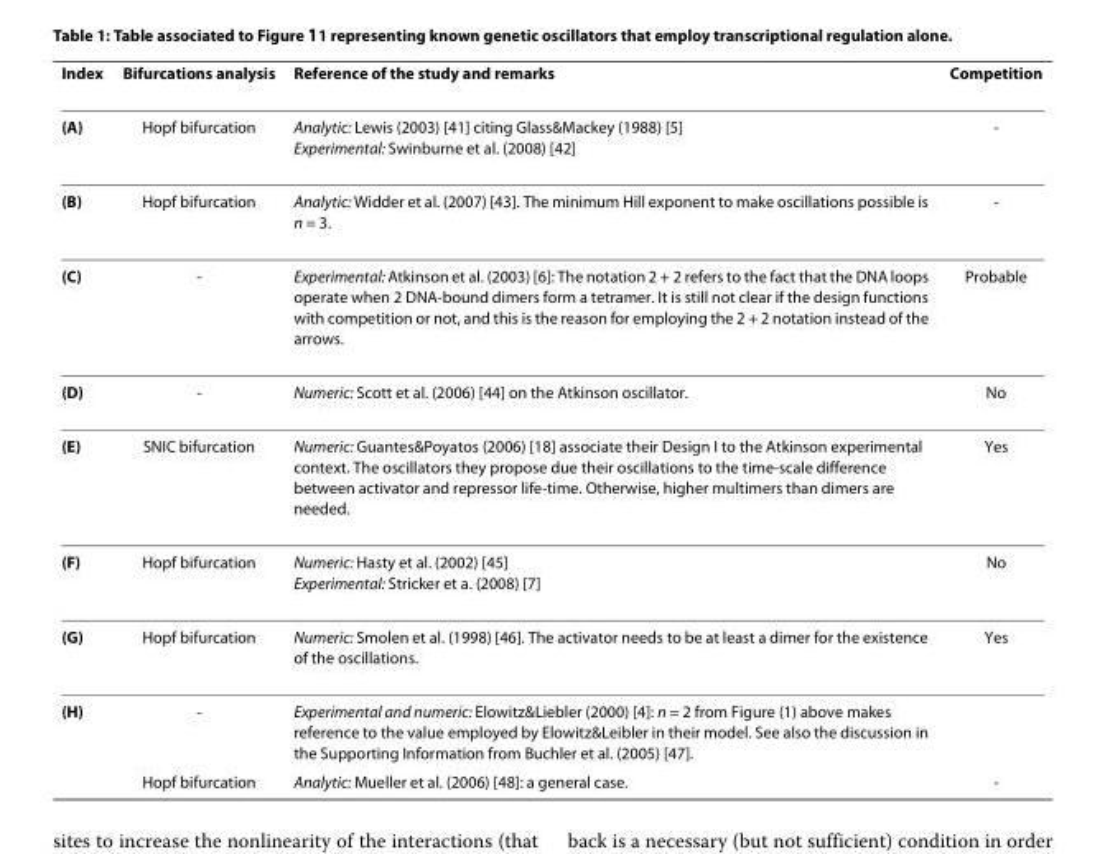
<table><thead><tr><td>Index</td><td>Bifurcations analysis</td><td>Reference of the study and remarks</td><td>Competition</td></tr></thead><tbody><tr><td>(A)</td><td>Hopf bifurcation</td><td>Analytic: Lewis (2003) [41] citing Glass&amp;Mackey (1988) [5] Experimental: Swinburne et al. (2008) [42]</td><td>-</td></tr><tr><td>(B)</td><td>Hopf bifurcation</td><td>Analytic: Widder et al. (2007) [43]. The minimum Hill exponent to make oscillations possible is n = 3.</td><td>-</td></tr><tr><td>(C)</td><td>-</td><td>Experimental: Atkinson et al. (2003) [6]: The notation 2 + 2 refers to the fact that the DNA loops operate when 2 DNA-bound dimers form a tetramer. It is still not clear if the design functions with competition or not, and this is the reason for employing the 2 + 2 notation instead of the arrows.</td><td>Probable</td></tr><tr><td>(D)</td><td>-</td><td>Numeric: Scott et al. (2006) [44] on the Atkinson oscillator.</td><td>No</td></tr><tr><td>(E)</td><td>SNIC bifurcation</td><td>Numeric: Guantes&amp;Poyatos (2006) [18] associate their Design I to the Atkinson experimental context. The oscillators they propose due their oscillations to the time-scale difference between activator and repressor life-time. Otherwise, higher multimers than dimers are needed.</td><td>Yes</td></tr><tr><td>(F)</td><td>Hopf bifurcation</td><td>Numeric: Hasty et al. (2002) [45] Experimental: Stricker et a. (2008) [7]</td><td>No</td></tr><tr><td>(G)</td><td>Hopf bifurcation</td><td>Numeric: Smolen et al. (1998) [46]. The activator needs to be at least a dimer for the existence of the oscillations.</td><td>Yes</td></tr><tr><td rowspan="2">(H)</td><td>-</td><td>Experimental and numeric: Elowitz&amp;Liebler (2000) [4]: n = 2 from Figure (1) above makes reference to the value employed by Elowitz&amp;Leibler in their model. See also the discussion in the Supporting Information from Buchler et al. (2005) [47].</td><td></td></tr><tr><td>Hopf bifurcation</td><td>Analytic: Mueller et al. (2006) [48]: a general case.</td><td>-</td></tr></tbody></table>